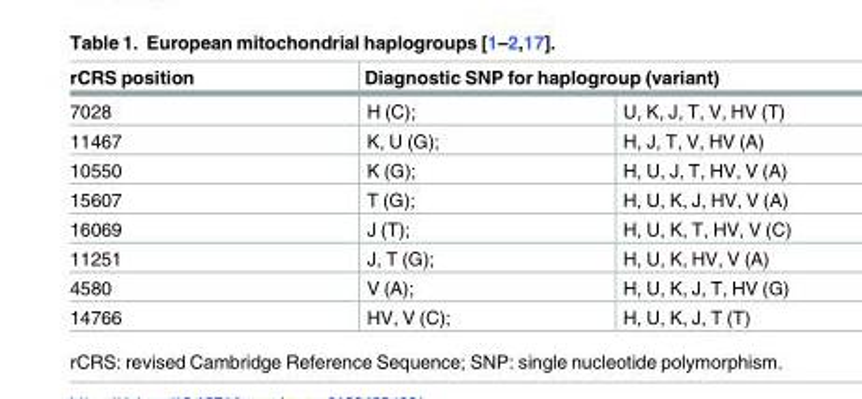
<table><thead><tr><td rowspan="2">rCRS position 7028</td><td colspan="2">Diagnostic SNP for haplogroup (variant)</td></tr><tr><td>H (C);</td><td>U, K, J, T, V, HV (T)</td></tr></thead><tbody><tr><td>11467</td><td>K, U (G);</td><td>H, J, T, V, HV (A)</td></tr><tr><td>10550</td><td>K (G);</td><td>H, U, J, T, HV, V (A)</td></tr><tr><td>15607</td><td>T (G);</td><td>H, U, K, J, HV, V (A)</td></tr><tr><td>16069</td><td>J (T);</td><td>H, U, K, T, HV, V (C)</td></tr><tr><td>11251</td><td>J, T (G);</td><td>H, U, K, HV, V (A)</td></tr><tr><td>4580</td><td>V (A);</td><td>H, U, K, J, T, HV (G)</td></tr><tr><td>14766</td><td>HV, V (C);</td><td>H, U, K, J, T (T)</td></tr></tbody></table>